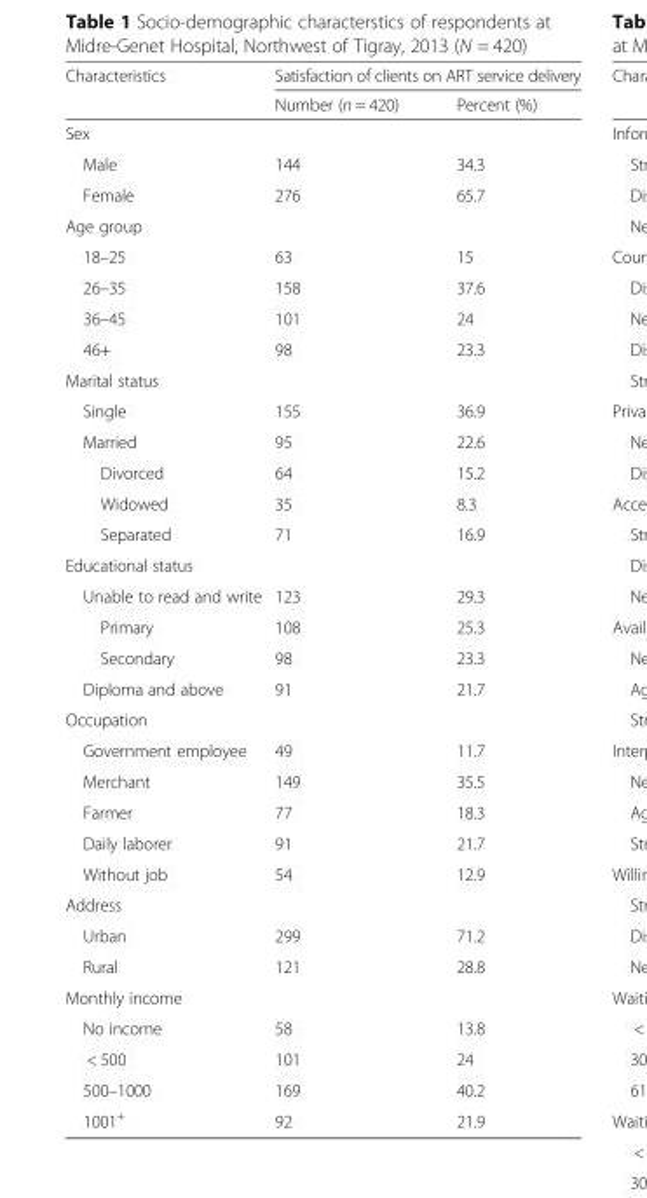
<table><thead><tr><td rowspan="2">Characteristics</td><td colspan="2">Satisfaction of clients on ART service delivery</td></tr><tr><td>Number (n = 420)</td><td>Percent (%)</td></tr></thead><tbody><tr><td colspan="3">Sex</td></tr><tr><td>Male</td><td>144</td><td>34.3</td></tr><tr><td>Female</td><td>276</td><td>65.7</td></tr><tr><td colspan="3">Age group</td></tr><tr><td>18–25</td><td>63</td><td>15</td></tr><tr><td>26–35</td><td>158</td><td>37.6</td></tr><tr><td>36–45</td><td>101</td><td>24</td></tr><tr><td>46+</td><td>98</td><td>23.3</td></tr><tr><td colspan="3">Marital status</td></tr><tr><td>Single</td><td>155</td><td>36.9</td></tr><tr><td>Married</td><td>95</td><td>22.6</td></tr><tr><td>Divorced</td><td>64</td><td>15.2</td></tr><tr><td>Widowed</td><td>35</td><td>8.3</td></tr><tr><td>Separated</td><td>71</td><td>16.9</td></tr><tr><td colspan="3">Educational status</td></tr><tr><td>Unable to read and write</td><td>123</td><td>29.3</td></tr><tr><td>Primary</td><td>108</td><td>25.3</td></tr><tr><td>Secondary</td><td>98</td><td>23.3</td></tr><tr><td>Diploma and above</td><td>91</td><td>21.7</td></tr><tr><td colspan="3">Occupation</td></tr><tr><td>Government employee</td><td>49</td><td>11.7</td></tr><tr><td>Merchant</td><td>149</td><td>35.5</td></tr><tr><td>Farmer</td><td>77</td><td>18.3</td></tr><tr><td>Daily laborer</td><td>91</td><td>21.7</td></tr><tr><td>Without job</td><td>54</td><td>12.9</td></tr><tr><td colspan="3">Address</td></tr><tr><td>Urban</td><td>299</td><td>71.2</td></tr><tr><td>Rural</td><td>121</td><td>28.8</td></tr><tr><td colspan="3">Monthly income</td></tr><tr><td>No income</td><td>58</td><td>13.8</td></tr><tr><td>&lt; 500</td><td>101</td><td>24</td></tr><tr><td>500–1000</td><td>169</td><td>40.2</td></tr><tr><td>1001<sup>+</sup></td><td>92</td><td>21.9</td></tr></tbody></table>